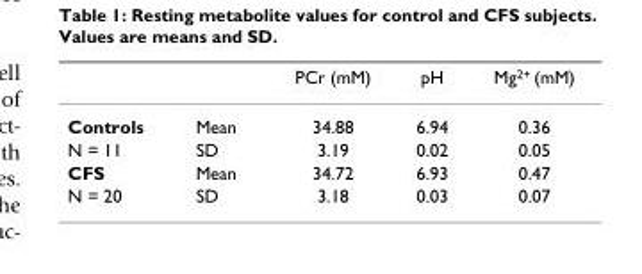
<table><thead><tr><td></td><td></td><td>PCr (mM)</td><td>pH</td><td>Mg<sup>2+</sup> (mM)</td></tr></thead><tbody><tr><td>Controls</td><td>Mean</td><td>34.88</td><td>6.94</td><td>0.36</td></tr><tr><td>N = 11</td><td>SD</td><td>3.19</td><td>0.02</td><td>0.05</td></tr><tr><td>CFS</td><td>Mean</td><td>34.72</td><td>6.93</td><td>0.47</td></tr><tr><td>N = 20</td><td>SD</td><td>3.18</td><td>0.03</td><td>0.07</td></tr></tbody></table>